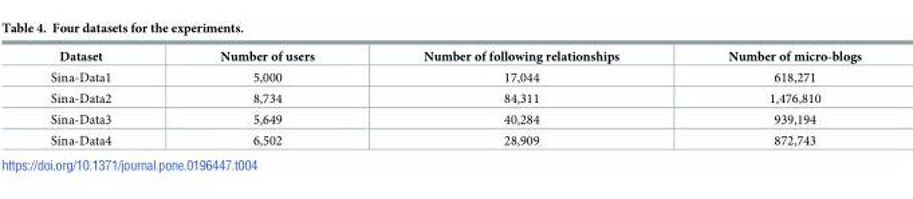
<table><thead><tr><td>Dataset</td><td>Number of users</td><td>Number of following relationships</td><td>Number of micro-blogs</td></tr></thead><tbody><tr><td>Sina-Data1</td><td>5,000</td><td>17,044</td><td>618,271</td></tr><tr><td>Sina-Data2</td><td>8,734</td><td>84,311</td><td>1,476,810</td></tr><tr><td>Sina-Data3</td><td>5,649</td><td>40,284</td><td>939,194</td></tr><tr><td>Sina-Data4</td><td>6,502</td><td>28,909</td><td>872,743</td></tr></tbody></table>